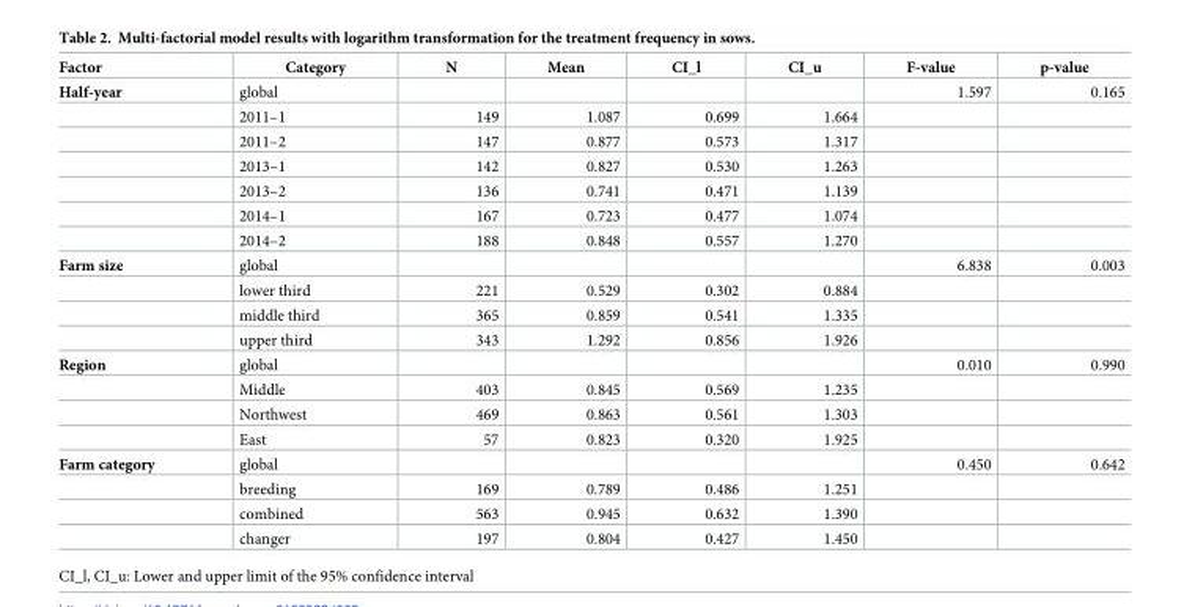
<table><thead><tr><td>Factor</td><td>Category</td><td>N</td><td>Mean</td><td>CI_l</td><td>CI_u</td><td>F-value</td><td>p-value</td></tr></thead><tbody><tr><td rowspan="7">Half-year</td><td>global</td><td></td><td></td><td></td><td></td><td>1.597</td><td>0.165</td></tr><tr><td>2011–1</td><td>149</td><td>1.087</td><td>0.699</td><td>1.664</td><td></td><td></td></tr><tr><td>2011–2</td><td>147</td><td>0.877</td><td>0.573</td><td>1.317</td><td></td><td></td></tr><tr><td>2013–1</td><td>142</td><td>0.827</td><td>0.530</td><td>1.263</td><td></td><td></td></tr><tr><td>2013–2</td><td>136</td><td>0.741</td><td>0.471</td><td>1.139</td><td></td><td></td></tr><tr><td>2014–1</td><td>167</td><td>0.723</td><td>0.477</td><td>1.074</td><td></td><td></td></tr><tr><td>2014–2</td><td>188</td><td>0.848</td><td>0.557</td><td>1.270</td><td></td><td></td></tr><tr><td rowspan="4">Farm size</td><td>global</td><td></td><td></td><td></td><td></td><td>6.838</td><td>0.003</td></tr><tr><td>lower third</td><td>221</td><td>0.529</td><td>0.302</td><td>0.884</td><td></td><td></td></tr><tr><td>middle third</td><td>365</td><td>0.859</td><td>0.541</td><td>1.335</td><td></td><td></td></tr><tr><td>upper third</td><td>343</td><td>1.292</td><td>0.856</td><td>1.926</td><td></td><td></td></tr><tr><td rowspan="4">Region</td><td>global</td><td></td><td></td><td></td><td></td><td>0.010</td><td>0.990</td></tr><tr><td>Middle</td><td>403</td><td>0.845</td><td>0.569</td><td>1.235</td><td></td><td></td></tr><tr><td>Northwest</td><td>469</td><td>0.863</td><td>0.561</td><td>1.303</td><td></td><td></td></tr><tr><td>East</td><td>57</td><td>0.823</td><td>0.320</td><td>1.925</td><td></td><td></td></tr><tr><td rowspan="4">Farm category</td><td>global</td><td></td><td></td><td></td><td></td><td>0.450</td><td>0.642</td></tr><tr><td>breeding</td><td>169</td><td>0.789</td><td>0.486</td><td>1.251</td><td></td><td></td></tr><tr><td>combined</td><td>563</td><td>0.945</td><td>0.632</td><td>1.390</td><td></td><td></td></tr><tr><td>changer</td><td>197</td><td>0.804</td><td>0.427</td><td>1.450</td><td></td><td></td></tr></tbody></table>